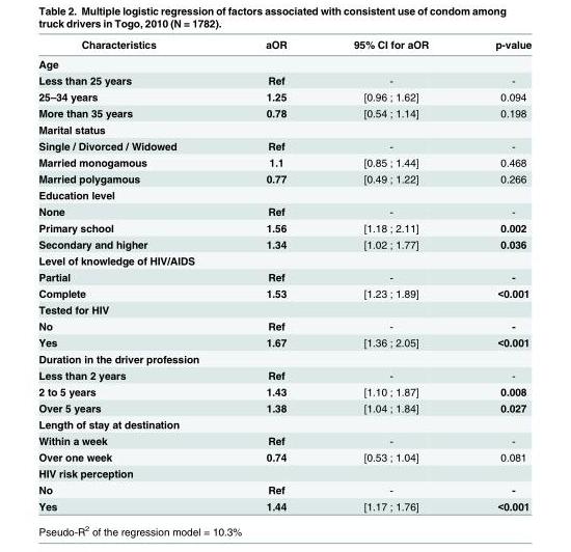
<table><thead><tr><td>Characteristics</td><td>aOR</td><td>95% CI for aOR</td><td>p-value</td></tr></thead><tbody><tr><td colspan="4">Age</td></tr><tr><td>Less than 25 years</td><td>Ref</td><td>-</td><td>-</td></tr><tr><td>25–34 years</td><td>1.25</td><td>[0.96 ; 1.62]</td><td>0.094</td></tr><tr><td>More than 35 years</td><td>0.78</td><td>[0.54 ; 1.14]</td><td>0.198</td></tr><tr><td colspan="4">Marital status</td></tr><tr><td>Single / Divorced / Widowed</td><td>Ref</td><td>-</td><td>-</td></tr><tr><td>Married monogamous</td><td>1.1</td><td>[0.85 ; 1.44]</td><td>0.468</td></tr><tr><td>Married polygamous</td><td>0.77</td><td>[0.49 ; 1.22]</td><td>0.266</td></tr><tr><td colspan="4">Education level</td></tr><tr><td>None</td><td>Ref</td><td>-</td><td>-</td></tr><tr><td>Primary school</td><td>1.56</td><td>[1.18 ; 2.11]</td><td>0.002</td></tr><tr><td>Secondary and higher</td><td>1.34</td><td>[1.02 ; 1.77]</td><td>0.036</td></tr><tr><td colspan="4">Level of knowledge of HIV/AIDS</td></tr><tr><td>Partial</td><td>Ref</td><td>-</td><td>-</td></tr><tr><td>Complete</td><td>1.53</td><td>[1.23 ; 1.89]</td><td>&lt;0.001</td></tr><tr><td colspan="4">Tested for HIV</td></tr><tr><td>No</td><td>Ref</td><td>-</td><td>-</td></tr><tr><td>Yes</td><td>1.67</td><td>[1.36 ; 2.05]</td><td>&lt;0.001</td></tr><tr><td colspan="4">Duration in the driver profession</td></tr><tr><td>Less than 2 years</td><td>Ref</td><td>-</td><td>-</td></tr><tr><td>2 to 5 years</td><td>1.43</td><td>[1.10 ; 1.87]</td><td>0.008</td></tr><tr><td>Over 5 years</td><td>1.38</td><td>[1.04 ; 1.84]</td><td>0.027</td></tr><tr><td colspan="4">Length of stay at destination</td></tr><tr><td>Within a week</td><td>Ref</td><td>-</td><td>-</td></tr><tr><td>Over one week</td><td>0.74</td><td>[0.53 ; 1.04]</td><td>0.081</td></tr><tr><td colspan="4">HIV risk perception</td></tr><tr><td>No</td><td>Ref</td><td>-</td><td>-</td></tr><tr><td>Yes</td><td>1.44</td><td>[1.17 ; 1.76]</td><td>&lt;0.001</td></tr></tbody></table>